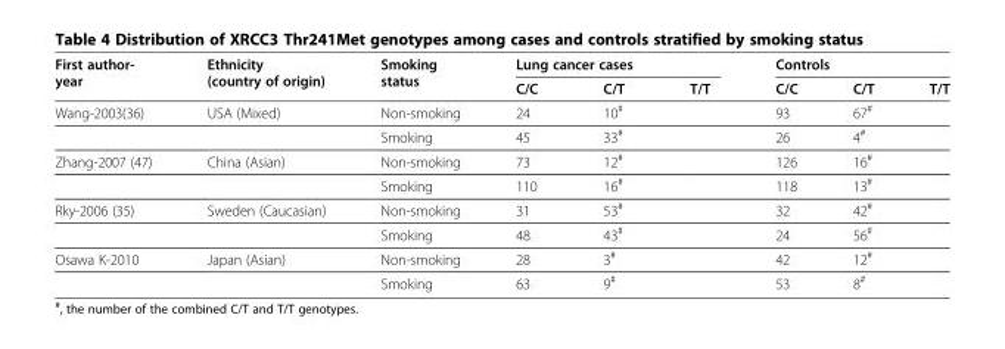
<table><thead><tr><td rowspan="2">First author- year</td><td rowspan="2">Ethnicity (country of origin)</td><td rowspan="2">Smoking status</td><td colspan="3">Lung cancer cases</td><td colspan="3">Controls</td></tr><tr><td>C/C</td><td>C/T</td><td>T/T</td><td>C/C</td><td>C/T</td><td>T/T</td></tr></thead><tbody><tr><td rowspan="2">Wang-2003(36)</td><td>USA (Mixed)</td><td>Non-smoking</td><td>24</td><td>10<sup>#</sup></td><td></td><td>93</td><td>67<sup>#</sup></td><td></td></tr><tr><td></td><td>Smoking</td><td>45</td><td>33<sup>#</sup></td><td></td><td>26</td><td>4<sup>#</sup></td><td></td></tr><tr><td rowspan="2">Zhang-2007 (47)</td><td>China (Asian)</td><td>Non-smoking</td><td>73</td><td>12<sup>#</sup></td><td></td><td>126</td><td>16<sup>#</sup></td><td></td></tr><tr><td></td><td>Smoking</td><td>110</td><td>16<sup>#</sup></td><td></td><td>118</td><td>13<sup>#</sup></td><td></td></tr><tr><td rowspan="2">Rky-2006 (35)</td><td>Sweden (Caucasian)</td><td>Non-smoking</td><td>31</td><td>53<sup>#</sup></td><td></td><td>32</td><td>42<sup>#</sup></td><td></td></tr><tr><td></td><td>Smoking</td><td>48</td><td>43<sup>#</sup></td><td></td><td>24</td><td>56<sup>#</sup></td><td></td></tr><tr><td rowspan="2">Osawa K-2010</td><td>Japan (Asian)</td><td>Non-smoking</td><td>28</td><td>3<sup>#</sup></td><td></td><td>42</td><td>12<sup>#</sup></td><td></td></tr><tr><td></td><td>Smoking</td><td>63</td><td>9<sup>#</sup></td><td></td><td>53</td><td>8<sup>#</sup></td><td></td></tr></tbody></table>